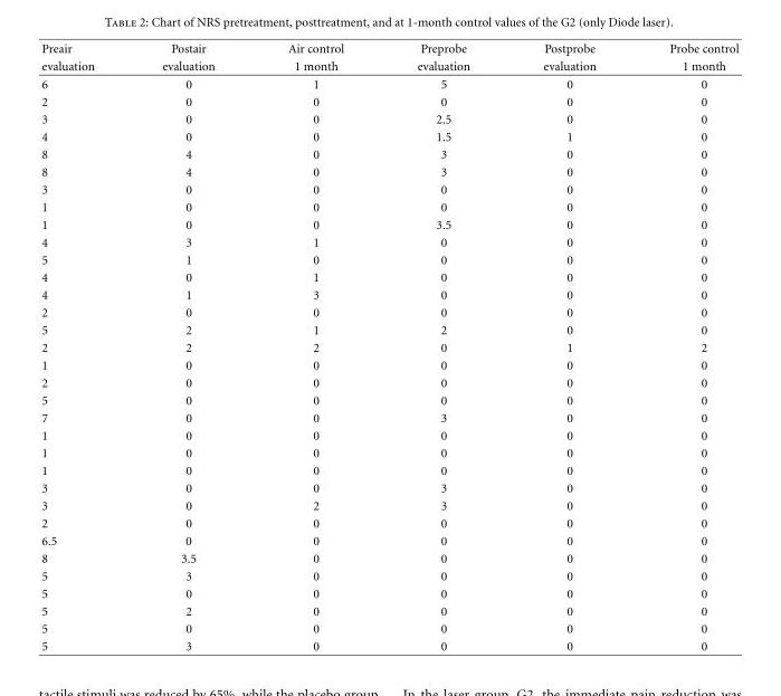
<table><thead><tr><td rowspan="2">Preair evaluation</td><td rowspan="2">Postair evaluation</td><td rowspan="2">Air control 1 month</td><td rowspan="2">Preprobe evaluation</td><td rowspan="2">Postprobe evaluation</td><td rowspan="2">Probe control 1 month</td></tr><tr></tr></thead><tbody><tr><td>6</td><td>0</td><td>1</td><td>5</td><td>0</td><td>0</td></tr><tr><td>2</td><td>0</td><td>0</td><td>0</td><td>0</td><td>0</td></tr><tr><td>3</td><td>0</td><td>0</td><td>2.5</td><td>0</td><td>0</td></tr><tr><td>4</td><td>0</td><td>0</td><td>1.5</td><td>1</td><td>0</td></tr><tr><td>8</td><td>4</td><td>0</td><td>3</td><td>0</td><td>0</td></tr><tr><td>8</td><td>4</td><td>0</td><td>3</td><td>0</td><td>0</td></tr><tr><td>3</td><td>0</td><td>0</td><td>0</td><td>0</td><td>0</td></tr><tr><td>1</td><td>0</td><td>0</td><td>0</td><td>0</td><td>0</td></tr><tr><td>1</td><td>0</td><td>0</td><td>3.5</td><td>0</td><td>0</td></tr><tr><td>4</td><td>3</td><td>1</td><td>0</td><td>0</td><td>0</td></tr><tr><td>5</td><td>1</td><td>0</td><td>0</td><td>0</td><td>0</td></tr><tr><td>4</td><td>0</td><td>1</td><td>0</td><td>0</td><td>0</td></tr><tr><td>4</td><td>1</td><td>3</td><td>0</td><td>0</td><td>0</td></tr><tr><td>2</td><td>0</td><td>0</td><td>0</td><td>0</td><td>0</td></tr><tr><td>5</td><td>2</td><td>1</td><td>2</td><td>0</td><td>0</td></tr><tr><td>2</td><td>2</td><td>2</td><td>0</td><td>1</td><td>2</td></tr><tr><td>1</td><td>0</td><td>0</td><td>0</td><td>0</td><td>0</td></tr><tr><td>2</td><td>0</td><td>0</td><td>0</td><td>0</td><td>0</td></tr><tr><td>5</td><td>0</td><td>0</td><td>0</td><td>0</td><td>0</td></tr><tr><td>7</td><td>0</td><td>0</td><td>3</td><td>0</td><td>0</td></tr><tr><td>1</td><td>0</td><td>0</td><td>0</td><td>0</td><td>0</td></tr><tr><td>1</td><td>0</td><td>0</td><td>0</td><td>0</td><td>0</td></tr><tr><td>1</td><td>0</td><td>0</td><td>0</td><td>0</td><td>0</td></tr><tr><td>3</td><td>0</td><td>0</td><td>3</td><td>0</td><td>0</td></tr><tr><td>3</td><td>0</td><td>2</td><td>3</td><td>0</td><td>0</td></tr><tr><td>2</td><td>0</td><td>0</td><td>0</td><td>0</td><td>0</td></tr><tr><td>6.5</td><td>0</td><td>0</td><td>0</td><td>0</td><td>0</td></tr><tr><td>8</td><td>3.5</td><td>0</td><td>0</td><td>0</td><td>0</td></tr><tr><td>5</td><td>3</td><td>0</td><td>0</td><td>0</td><td>0</td></tr><tr><td>5</td><td>0</td><td>0</td><td>0</td><td>0</td><td>0</td></tr><tr><td>5</td><td>2</td><td>0</td><td>0</td><td>0</td><td>0</td></tr><tr><td>5</td><td>0</td><td>0</td><td>0</td><td>0</td><td>0</td></tr><tr><td>5</td><td>3</td><td>0</td><td>0</td><td>0</td><td>0</td></tr></tbody></table>